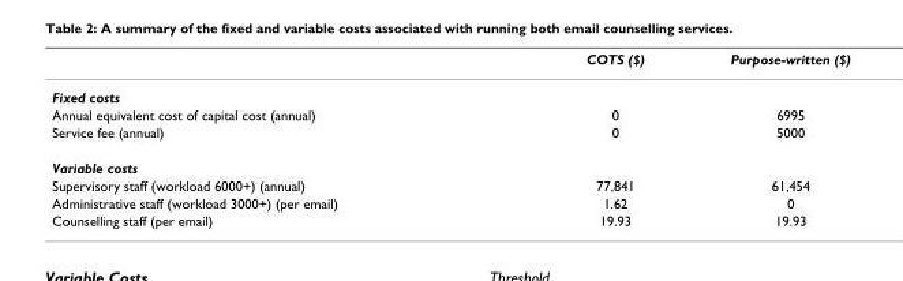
<table><thead><tr><td></td><td>COTS ($)</td><td>Purpose-written ($)</td></tr></thead><tbody><tr><td colspan="3">Fixed costs</td></tr><tr><td>Annual equivalent cost of capital cost (annual)</td><td>0</td><td>6995</td></tr><tr><td>Service fee (annual)</td><td>0</td><td>5000</td></tr><tr><td colspan="3">Variable costs</td></tr><tr><td>Supervisory staff (workload 6000+) (annual)</td><td>77,841</td><td>61,454</td></tr><tr><td>Administrative staff (workload 3000+) (per email)</td><td>1.62</td><td>0</td></tr><tr><td>Counselling staff (per email)</td><td>19.93</td><td>19.93</td></tr></tbody></table>